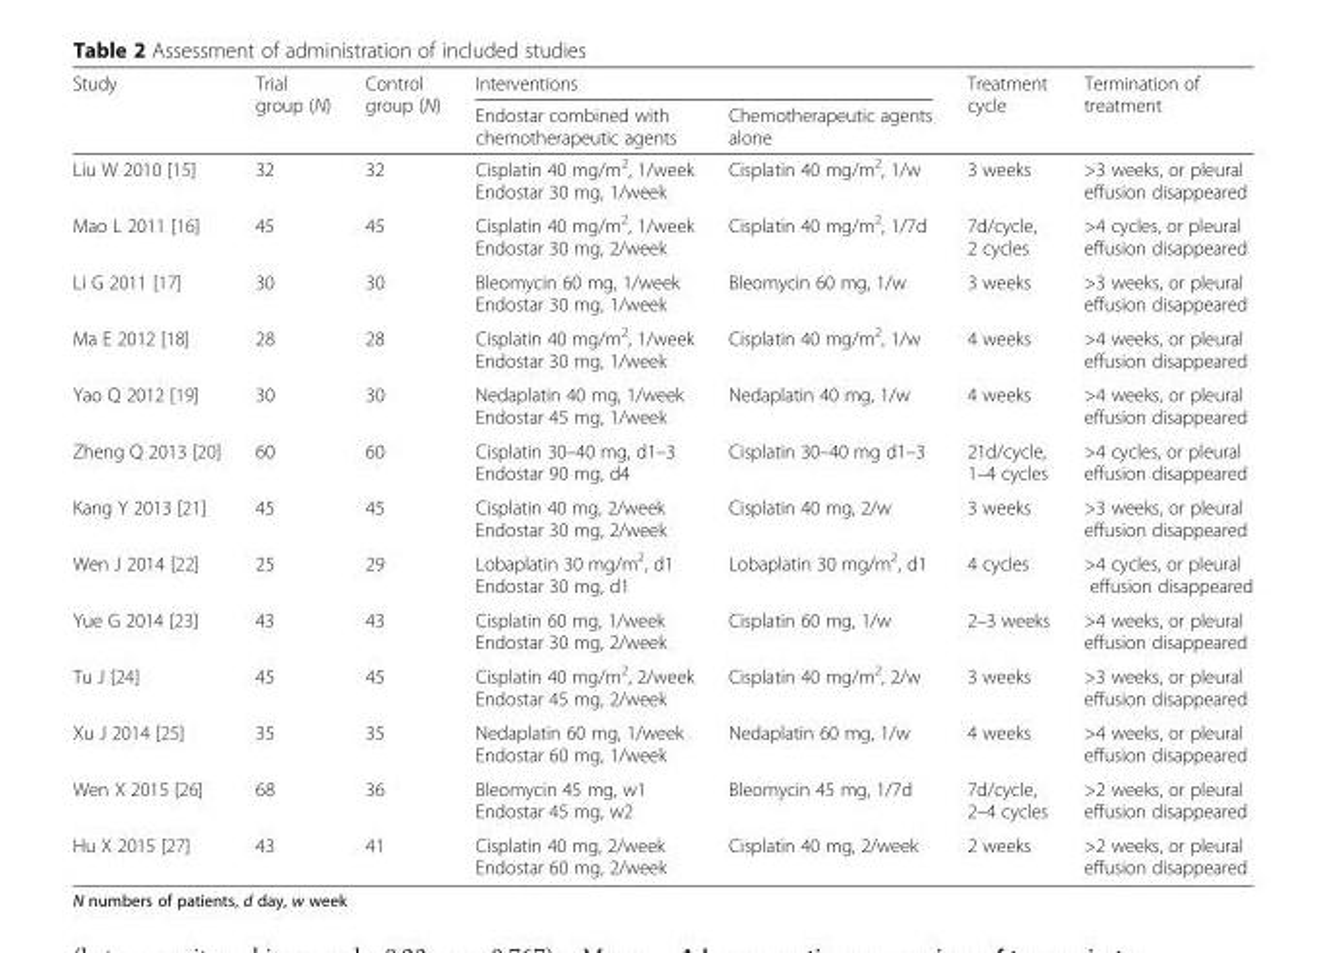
<table><thead><tr><td rowspan="2">Study</td><td rowspan="2">Trial group (N)</td><td rowspan="2">Control group (N)</td><td colspan="2">Interventions</td><td rowspan="2">Treatment cycle</td><td rowspan="2">Termination of treatment</td></tr><tr><td>Endostar combined with chemotherapeutic agents</td><td>Chemotherapeutic agents alone</td></tr></thead><tbody><tr><td>Liu W 2010 [15]</td><td>32</td><td>32</td><td>Cisplatin 40 mg/m<sup>2</sup>, 1/week Endostar 30 mg, 1/week</td><td>Cisplatin 40 mg/m<sup>2</sup>, 1/w</td><td>3 weeks</td><td>&gt;3 weeks, or pleural effusion disappeared</td></tr><tr><td>Mao L 2011 [16]</td><td>45</td><td>45</td><td>Cisplatin 40 mg/m<sup>2</sup>, 1/week Endostar 30 mg, 2/week</td><td>Cisplatin 40 mg/m<sup>2</sup>, 1/7d</td><td>7d/cycle, 2 cycles</td><td>&gt;4 cycles, or pleural effusion disappeared</td></tr><tr><td>Li G 2011 [17]</td><td>30</td><td>30</td><td>Bleomycin 60 mg, 1/week Endostar 30 mg, 1/week</td><td>Bleomycin 60 mg, 1/w</td><td>3 weeks</td><td>&gt;3 weeks, or pleural effusion disappeared</td></tr><tr><td>Ma E 2012 [18]</td><td>28</td><td>28</td><td>Cisplatin 40 mg/m<sup>2</sup>, 1/week Endostar 30 mg, 1/week</td><td>Cisplatin 40 mg/m<sup>2</sup>, 1/w</td><td>4 weeks</td><td>&gt;4 weeks, or pleural effusion disappeared</td></tr><tr><td>Yao Q 2012 [19]</td><td>30</td><td>30</td><td>Nedaplatin 40 mg, 1/week Endostar 45 mg, 1/week</td><td>Nedaplatin 40 mg, 1/w</td><td>4 weeks</td><td>&gt;4 weeks, or pleural effusion disappeared</td></tr><tr><td>Zheng Q 2013 [20]</td><td>60</td><td>60</td><td>Cisplatin 30–40 mg, d1–3 Endostar 90 mg, d4</td><td>Cisplatin 30–40 mg d1–3</td><td>21d/cycle, 1–4 cycles</td><td>&gt;4 cycles, or pleural effusion disappeared</td></tr><tr><td>Kang Y 2013 [21]</td><td>45</td><td>45</td><td>Cisplatin 40 mg, 2/week Endostar 30 mg, 2/week</td><td>Cisplatin 40 mg, 2/w</td><td>3 weeks</td><td>&gt;3 weeks, or pleural effusion disappeared</td></tr><tr><td>Wen J 2014 [22]</td><td>25</td><td>29</td><td>Lobaplatin 30 mg/m<sup>2</sup>, d1 Endostar 30 mg, d1</td><td>Lobaplatin 30 mg/m<sup>2</sup>, d1</td><td>4 cycles</td><td>&gt;4 cycles, or pleural effusion disappeared</td></tr><tr><td>Yue G 2014 [23]</td><td>43</td><td>43</td><td>Cisplatin 60 mg, 1/week Endostar 30 mg, 2/week</td><td>Cisplatin 60 mg, 1/w</td><td>2–3 weeks</td><td>&gt;4 weeks, or pleural effusion disappeared</td></tr><tr><td>Tu J [24]</td><td>45</td><td>45</td><td>Cisplatin 40 mg/m<sup>2</sup>, 2/week Endostar 45 mg, 2/week</td><td>Cisplatin 40 mg/m<sup>2</sup>, 2/w</td><td>3 weeks</td><td>&gt;3 weeks, or pleural effusion disappeared</td></tr><tr><td>Xu J 2014 [25]</td><td>35</td><td>35</td><td>Nedaplatin 60 mg, 1/week Endostar 60 mg, 1/week</td><td>Nedaplatin 60 mg, 1/w</td><td>4 weeks</td><td>&gt;4 weeks, or pleural effusion disappeared</td></tr><tr><td>Wen X 2015 [26]</td><td>68</td><td>36</td><td>Bleomycin 45 mg, w1 Endostar 45 mg, w2</td><td>Bleomycin 45 mg, 1/7d</td><td>7d/cycle, 2–4 cycles</td><td>&gt;2 weeks, or pleural effusion disappeared</td></tr><tr><td>Hu X 2015 [27]</td><td>43</td><td>41</td><td>Cisplatin 40 mg, 2/week Endostar 60 mg, 2/week</td><td>Cisplatin 40 mg, 2/week</td><td>2 weeks</td><td>&gt;2 weeks, or pleural effusion disappeared</td></tr></tbody></table>